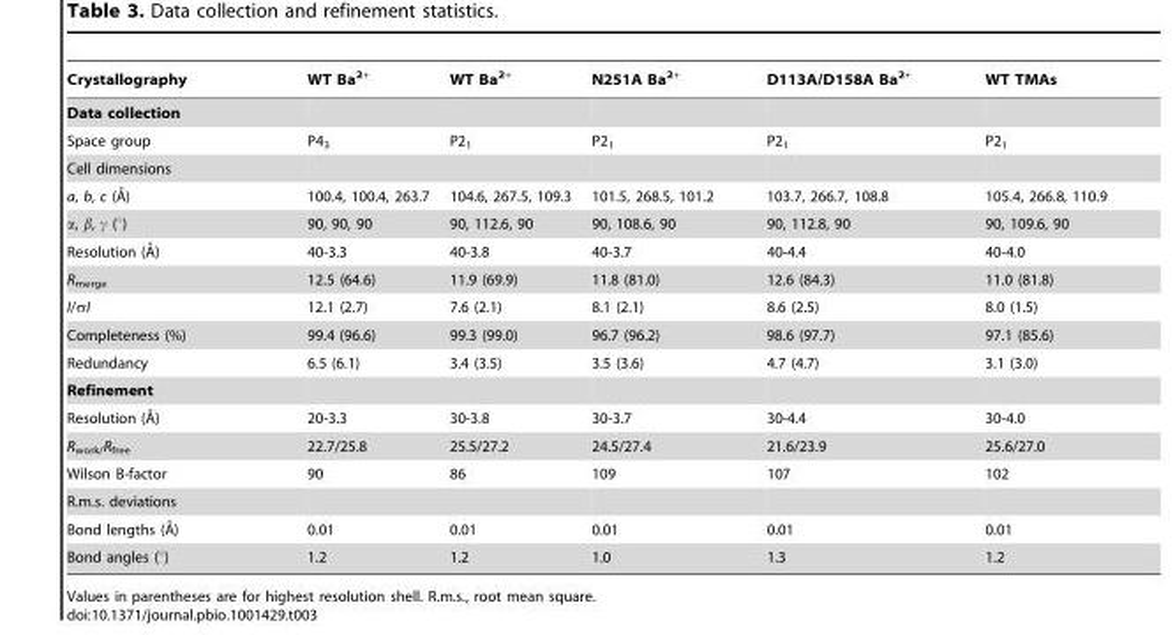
<table><thead><tr><td>Crystallography</td><td>WT Ba<sup>2+</sup></td><td>WT Ba<sup>2+</sup></td><td>N251A Ba<sup>2+</sup></td><td>D113A/D158A Ba<sup>2+</sup></td><td>WT TMAs</td></tr></thead><tbody><tr><td colspan="6">Data collection</td></tr><tr><td>Space group</td><td>P4<sub>3</sub></td><td>P2<sub>1</sub></td><td>P2<sub>1</sub></td><td>P2<sub>1</sub></td><td>P2<sub>1</sub></td></tr><tr><td colspan="6">Cell dimensions</td></tr><tr><td>a, b, c (A˚)</td><td>100.4, 100.4, 263.7</td><td>104.6, 267.5, 109.3</td><td>101.5, 268.5, 101.2</td><td>103.7, 266.7, 108.8</td><td>105.4, 266.8, 110.9</td></tr><tr><td>α, β, γ (°)</td><td>90, 90, 90</td><td>90, 112.6, 90</td><td>90, 108.6, 90</td><td>90, 112.8, 90</td><td>90, 109.6, 90</td></tr><tr><td>Resolution (A˚)</td><td>40-3.3</td><td>40-3.8</td><td>40-3.7</td><td>40-4.4</td><td>40-4.0</td></tr><tr><td>R<sub>merge</sub></td><td>12.5 (64.6)</td><td>11.9 (69.9)</td><td>11.8 (81.0)</td><td>12.6 (84.3)</td><td>11.0 (81.8)</td></tr><tr><td>I/σI</td><td>12.1 (2.7)</td><td>7.6 (2.1)</td><td>8.1 (2.1)</td><td>8.6 (2.5)</td><td>8.0 (1.5)</td></tr><tr><td>Completeness (%)</td><td>99.4 (96.6)</td><td>99.3 (99.0)</td><td>96.7 (96.2)</td><td>98.6 (97.7)</td><td>97.1 (85.6)</td></tr><tr><td>Redundancy</td><td>6.5 (6.1)</td><td>3.4 (3.5)</td><td>3.5 (3.6)</td><td>4.7 (4.7)</td><td>3.1 (3.0)</td></tr><tr><td colspan="6">Refinement</td></tr><tr><td>Resolution (A˚)</td><td>20-3.3</td><td>30-3.8</td><td>30-3.7</td><td>30-4.4</td><td>30-4.0</td></tr><tr><td>R<sub>work/</sub>R<sub>free</sub></td><td>22.7/25.8</td><td>25.5/27.2</td><td>24.5/27.4</td><td>21.6/23.9</td><td>25.6/27.0</td></tr><tr><td>Wilson B-factor</td><td>90</td><td>86</td><td>109</td><td>107</td><td>102</td></tr><tr><td colspan="6">R.m.s. deviations</td></tr><tr><td>Bond lengths (A˚)</td><td>0.01</td><td>0.01</td><td>0.01</td><td>0.01</td><td>0.01</td></tr><tr><td>Bond angles (°)</td><td>1.2</td><td>1.2</td><td>1.0</td><td>1.3</td><td>1.2</td></tr></tbody></table>